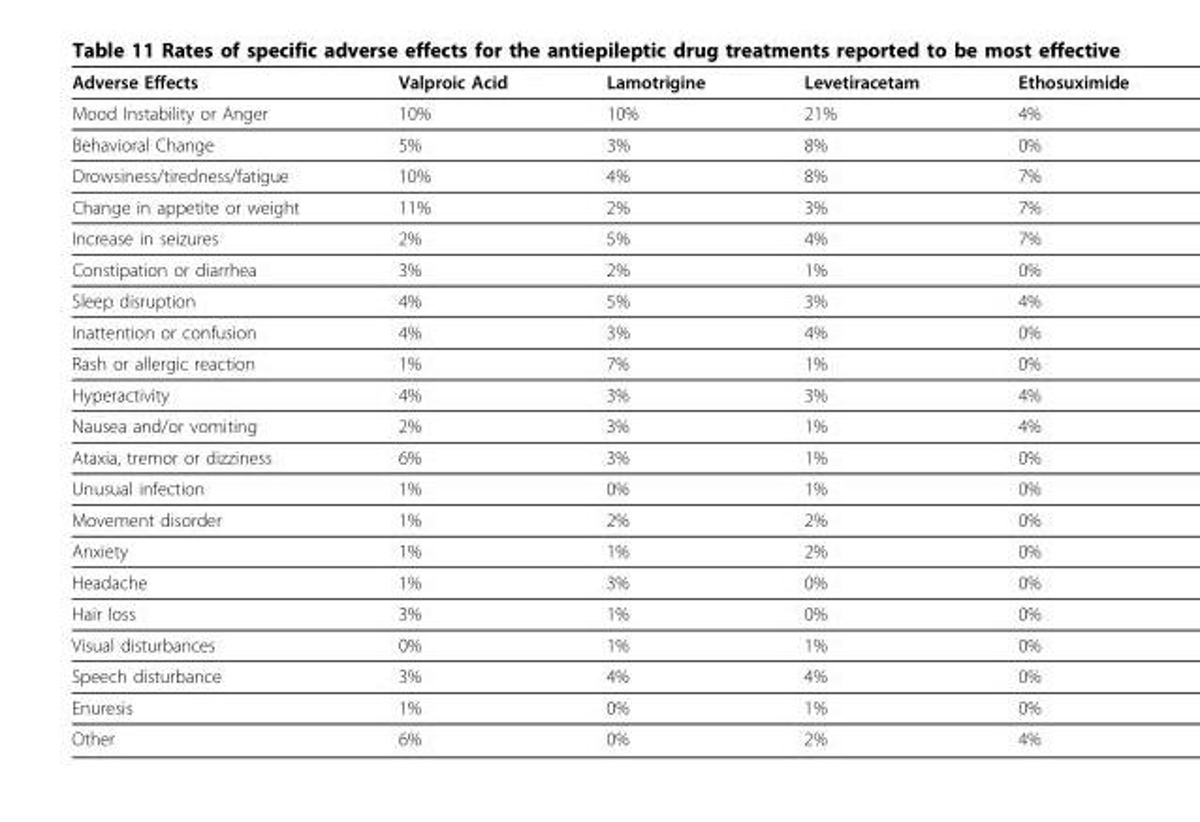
<table><thead><tr><td>Adverse Effects</td><td>Valproic Acid</td><td>Lamotrigine</td><td>Levetiracetam</td><td>Ethosuximide</td></tr></thead><tbody><tr><td>Mood Instability or Anger</td><td>10%</td><td>10%</td><td>21%</td><td>4%</td></tr><tr><td>Behavioral Change</td><td>5%</td><td>3%</td><td>8%</td><td>0%</td></tr><tr><td>Drowsiness/tiredness/fatigue</td><td>10%</td><td>4%</td><td>8%</td><td>7%</td></tr><tr><td>Change in appetite or weight</td><td>11%</td><td>2%</td><td>3%</td><td>7%</td></tr><tr><td>Increase in seizures</td><td>2%</td><td>5%</td><td>4%</td><td>7%</td></tr><tr><td>Constipation or diarrhea</td><td>3%</td><td>2%</td><td>1%</td><td>0%</td></tr><tr><td>Sleep disruption</td><td>4%</td><td>5%</td><td>3%</td><td>4%</td></tr><tr><td>Inattention or confusion</td><td>4%</td><td>3%</td><td>4%</td><td>0%</td></tr><tr><td>Rash or allergic reaction</td><td>1%</td><td>7%</td><td>1%</td><td>0%</td></tr><tr><td>Hyperactivity</td><td>4%</td><td>3%</td><td>3%</td><td>4%</td></tr><tr><td>Nausea and/or vomiting</td><td>2%</td><td>3%</td><td>1%</td><td>4%</td></tr><tr><td>Ataxia, tremor or dizziness</td><td>6%</td><td>3%</td><td>1%</td><td>0%</td></tr><tr><td>Unusual infection</td><td>1%</td><td>0%</td><td>1%</td><td>0%</td></tr><tr><td>Movement disorder</td><td>1%</td><td>2%</td><td>2%</td><td>0%</td></tr><tr><td>Anxiety</td><td>1%</td><td>1%</td><td>2%</td><td>0%</td></tr><tr><td>Headache</td><td>1%</td><td>3%</td><td>0%</td><td>0%</td></tr><tr><td>Hair loss</td><td>3%</td><td>1%</td><td>0%</td><td>0%</td></tr><tr><td>Visual disturbances</td><td>0%</td><td>1%</td><td>1%</td><td>0%</td></tr><tr><td>Speech disturbance</td><td>3%</td><td>4%</td><td>4%</td><td>0%</td></tr><tr><td>Enuresis</td><td>1%</td><td>0%</td><td>1%</td><td>0%</td></tr><tr><td>Other</td><td>6%</td><td>0%</td><td>2%</td><td>4%</td></tr></tbody></table>